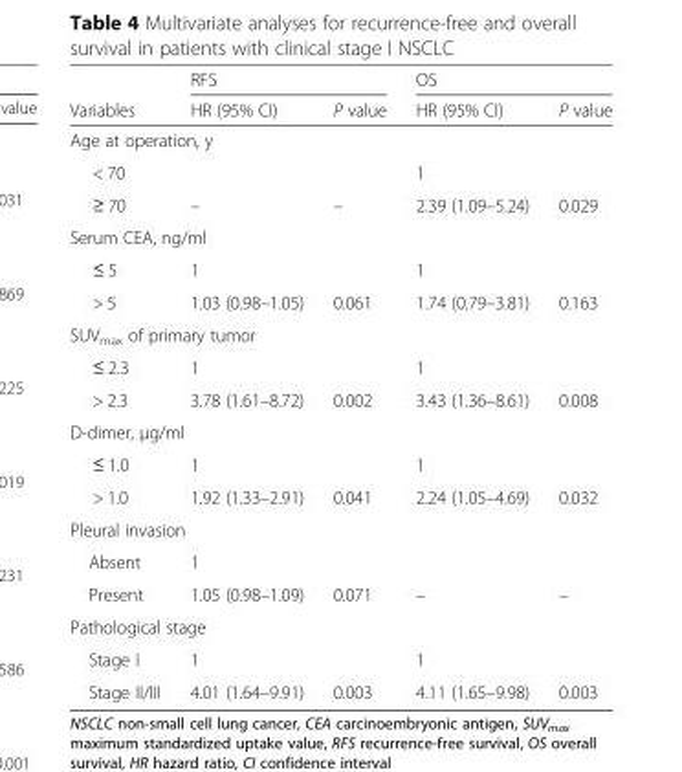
<table><thead><tr><td rowspan="2">Variables</td><td colspan="2">RFS</td><td colspan="2">OS</td></tr><tr><td>HR (95% CI)</td><td>P value</td><td>HR (95% CI)</td><td>P value</td></tr></thead><tbody><tr><td colspan="5">Age at operation, y</td></tr><tr><td>&lt; 70</td><td></td><td></td><td>1</td><td></td></tr><tr><td>≥ 70</td><td>–</td><td>–</td><td>2.39 (1.09–5.24)</td><td>0.029</td></tr><tr><td colspan="5">Serum CEA, ng/ml</td></tr><tr><td>≤ 5</td><td>1</td><td></td><td>1</td><td></td></tr><tr><td>&gt; 5</td><td>1.03 (0.98–1.05)</td><td>0.061</td><td>1.74 (0.79–3.81)</td><td>0.163</td></tr><tr><td colspan="5">SUV<sub>max</sub> of primary tumor</td></tr><tr><td>≤ 2.3</td><td>1</td><td></td><td>1</td><td></td></tr><tr><td>&gt; 2.3</td><td>3.78 (1.61–8.72)</td><td>0.002</td><td>3.43 (1.36–8.61)</td><td>0.008</td></tr><tr><td colspan="5">D-dimer, μg/ml</td></tr><tr><td>≤ 1.0</td><td>1</td><td></td><td>1</td><td></td></tr><tr><td>&gt; 1.0</td><td>1.92 (1.33–2.91)</td><td>0.041</td><td>2.24 (1.05–4.69)</td><td>0.032</td></tr><tr><td colspan="5">Pleural invasion</td></tr><tr><td>Absent</td><td>1</td><td></td><td></td><td></td></tr><tr><td>Present</td><td>1.05 (0.98–1.09)</td><td>0.071</td><td>–</td><td>–</td></tr><tr><td colspan="5">Pathological stage</td></tr><tr><td>Stage I</td><td>1</td><td></td><td>1</td><td></td></tr><tr><td>Stage II/III</td><td>4.01 (1.64–9.91)</td><td>0.003</td><td>4.11 (1.65–9.98)</td><td>0.003</td></tr></tbody></table>